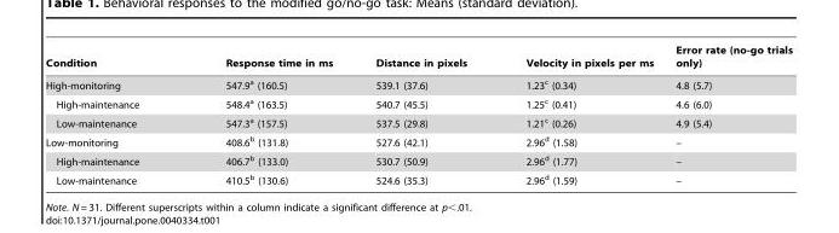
<table><thead><tr><td>Condition</td><td>Response time in ms</td><td>Distance in pixels</td><td>Velocity in pixels per ms</td><td>Error rate (no-go trials only)</td></tr></thead><tbody><tr><td>High-monitoring</td><td>547.9<sup>a</sup> (160.5)</td><td>539.1 (37.6)</td><td>1.23<sup>c</sup> (0.34)</td><td>4.8 (5.7)</td></tr><tr><td>High-maintenance</td><td>548.4<sup>a</sup> (163.5)</td><td>540.7 (45.5)</td><td>1.25<sup>c</sup> (0.41)</td><td>4.6 (6.0)</td></tr><tr><td>Low-maintenance</td><td>547.3<sup>a</sup> (157.5)</td><td>537.5 (29.8)</td><td>1.21<sup>c</sup> (0.26)</td><td>4.9 (5.4)</td></tr><tr><td>Low-monitoring</td><td>408.6<sup>b</sup> (131.8)</td><td>527.6 (42.1)</td><td>2.96<sup>d</sup> (1.58)</td><td>–</td></tr><tr><td>High-maintenance</td><td>406.7<sup>b</sup> (133.0)</td><td>530.7 (50.9)</td><td>2.96<sup>d</sup> (1.77)</td><td>–</td></tr><tr><td>Low-maintenance</td><td>410.5<sup>b</sup> (130.6)</td><td>524.6 (35.3)</td><td>2.96<sup>d</sup> (1.59)</td><td>–</td></tr></tbody></table>